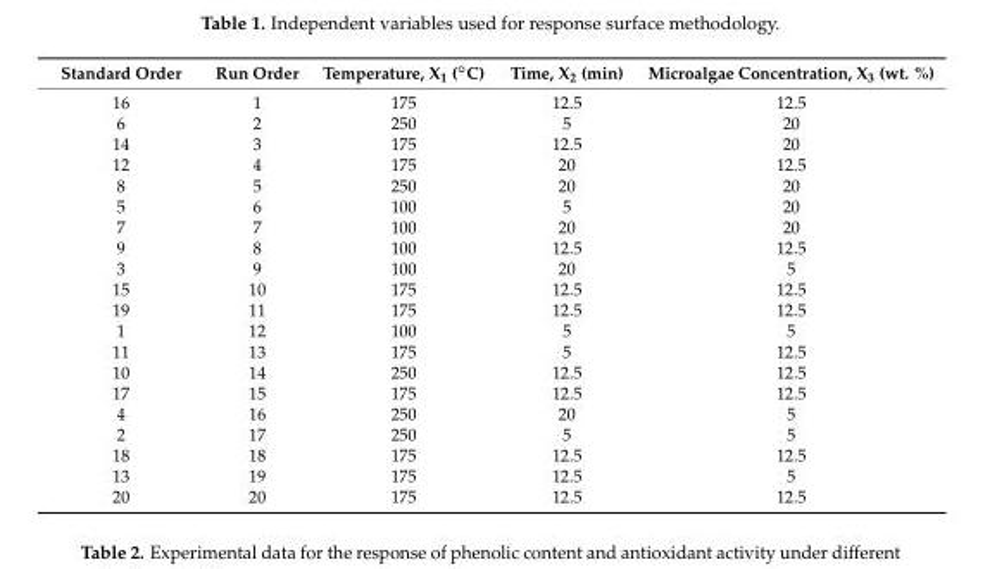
<table><thead><tr><td>Standard Order</td><td>Run Order</td><td>Temperature, X1 (◦C)</td><td>Time, X<sub>2</sub> (min)</td><td>Microalgae Concentration, X<sub>3</sub> (wt. %)</td></tr></thead><tbody><tr><td>16</td><td>1</td><td>175</td><td>12.5</td><td>12.5</td></tr><tr><td>6</td><td>2</td><td>250</td><td>5</td><td>20</td></tr><tr><td>14</td><td>3</td><td>175</td><td>12.5</td><td>20</td></tr><tr><td>12</td><td>4</td><td>175</td><td>20</td><td>12.5</td></tr><tr><td>8</td><td>5</td><td>250</td><td>20</td><td>20</td></tr><tr><td>5</td><td>6</td><td>100</td><td>5</td><td>20</td></tr><tr><td>7</td><td>7</td><td>100</td><td>20</td><td>20</td></tr><tr><td>9</td><td>8</td><td>100</td><td>12.5</td><td>12.5</td></tr><tr><td>3</td><td>9</td><td>100</td><td>20</td><td>5</td></tr><tr><td>15</td><td>10</td><td>175</td><td>12.5</td><td>12.5</td></tr><tr><td>19</td><td>11</td><td>175</td><td>12.5</td><td>12.5</td></tr><tr><td>1</td><td>12</td><td>100</td><td>5</td><td>5</td></tr><tr><td>11</td><td>13</td><td>175</td><td>5</td><td>12.5</td></tr><tr><td>10</td><td>14</td><td>250</td><td>12.5</td><td>12.5</td></tr><tr><td>17</td><td>15</td><td>175</td><td>12.5</td><td>12.5</td></tr><tr><td>4</td><td>16</td><td>250</td><td>20</td><td>5</td></tr><tr><td>2</td><td>17</td><td>250</td><td>5</td><td>5</td></tr><tr><td>18</td><td>18</td><td>175</td><td>12.5</td><td>12.5</td></tr><tr><td>13</td><td>19</td><td>175</td><td>12.5</td><td>5</td></tr><tr><td>20</td><td>20</td><td>175</td><td>12.5</td><td>12.5</td></tr></tbody></table>